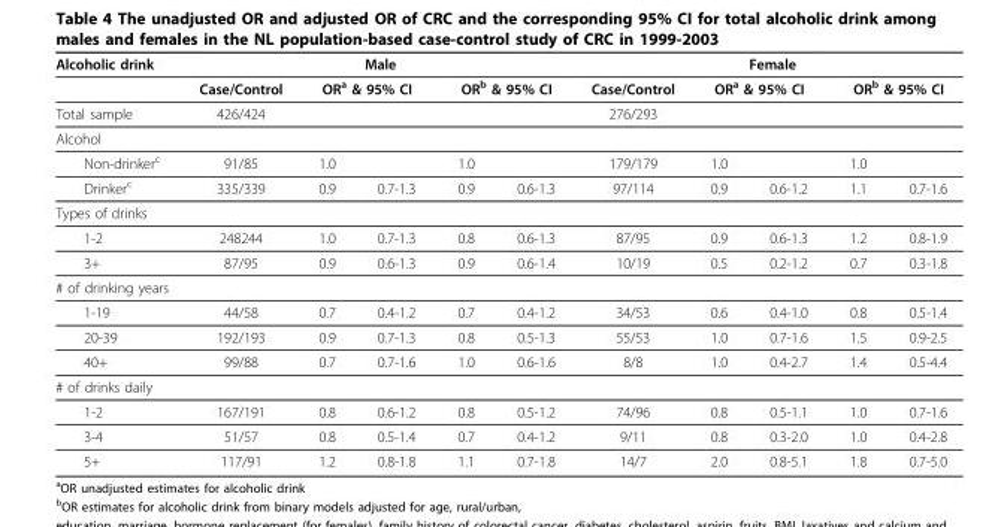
<table><thead><tr><td rowspan="3">Alcoholic drink Total sample</td><td colspan="5">Male</td><td colspan="5">Female</td></tr><tr><td rowspan="2">Case/Control 426/424</td><td colspan="2">ORa &amp; 95% CI</td><td colspan="2">ORb &amp; 95% CI</td><td rowspan="2">Case/Control 276/293</td><td colspan="2">ORa &amp; 95% CI</td><td colspan="2">ORb &amp; 95% CI</td></tr><tr><td></td><td></td><td></td><td></td><td></td><td></td><td></td><td></td></tr></thead><tbody><tr><td colspan="11">Alcohol</td></tr><tr><td>Non-drinker<sup>c</sup></td><td>91/85</td><td>1.0</td><td></td><td>1.0</td><td></td><td>179/179</td><td>1.0</td><td></td><td>1.0</td><td></td></tr><tr><td>Drinker<sup>c</sup></td><td>335/339</td><td>0.9</td><td>0.7-1.3</td><td>0.9</td><td>0.6-1.3</td><td>97/114</td><td>0.9</td><td>0.6-1.2</td><td>1.1</td><td>0.7-1.6</td></tr><tr><td colspan="11">Types of drinks</td></tr><tr><td>1-2</td><td>248244</td><td>1.0</td><td>0.7-1.3</td><td>0.8</td><td>0.6-1.3</td><td>87/95</td><td>0.9</td><td>0.6-1.3</td><td>1.2</td><td>0.8-1.9</td></tr><tr><td>3+</td><td>87/95</td><td>0.9</td><td>0.6-1.3</td><td>0.9</td><td>0.6-1.4</td><td>10/19</td><td>0.5</td><td>0.2-1.2</td><td>0.7</td><td>0.3-1.8</td></tr><tr><td colspan="11"># of drinking years</td></tr><tr><td>1-19</td><td>44/58</td><td>0.7</td><td>0.4-1.2</td><td>0.7</td><td>0.4-1.2</td><td>34/53</td><td>0.6</td><td>0.4-1.0</td><td>0.8</td><td>0.5-1.4</td></tr><tr><td>20-39</td><td>192/193</td><td>0.9</td><td>0.7-1.3</td><td>0.8</td><td>0.5-1.3</td><td>55/53</td><td>1.0</td><td>0.7-1.6</td><td>1.5</td><td>0.9-2.5</td></tr><tr><td>40+</td><td>99/88</td><td>0.7</td><td>0.7-1.6</td><td>1.0</td><td>0.6-1.6</td><td>8/8</td><td>1.0</td><td>0.4-2.7</td><td>1.4</td><td>0.5-4.4</td></tr><tr><td colspan="11"># of drinks daily</td></tr><tr><td>1-2</td><td>167/191</td><td>0.8</td><td>0.6-1.2</td><td>0.8</td><td>0.5-1.2</td><td>74/96</td><td>0.8</td><td>0.5-1.1</td><td>1.0</td><td>0.7-1.6</td></tr><tr><td>3-4</td><td>51/57</td><td>0.8</td><td>0.5-1.4</td><td>0.7</td><td>0.4-1.2</td><td>9/11</td><td>0.8</td><td>0.3-2.0</td><td>1.0</td><td>0.4-2.8</td></tr><tr><td>5+</td><td>117/91</td><td>1.2</td><td>0.8-1.8</td><td>1.1</td><td>0.7-1.8</td><td>14/7</td><td>2.0</td><td>0.8-5.1</td><td>1.8</td><td>0.7-5.0</td></tr></tbody></table>